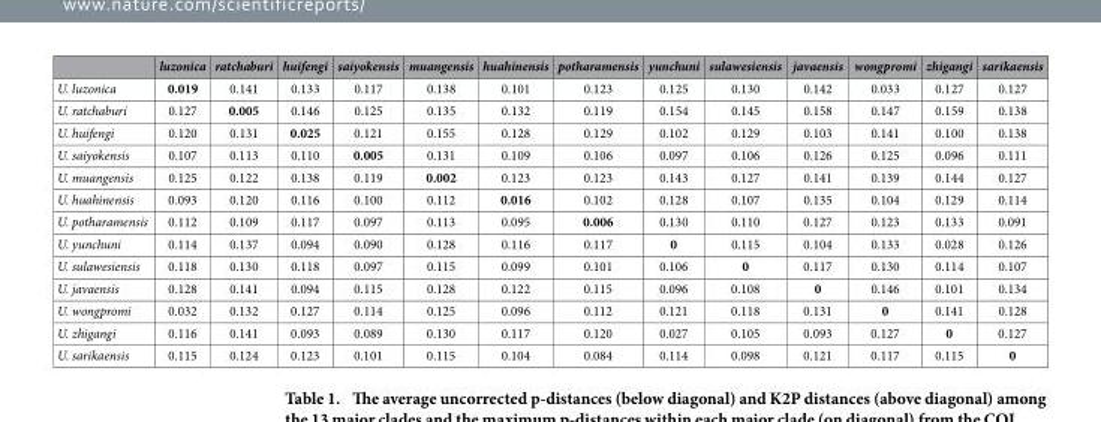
<table><thead><tr><td></td><td>luzonica</td><td>ratchaburi</td><td>huifengi</td><td>saiyokensis</td><td>muangensis</td><td>huahinensis</td><td>potharamensis</td><td>yunchuni</td><td>sulawesiensis</td><td>javaensis</td><td>wongpromi</td><td>zhigangi</td><td>sarikaensis</td></tr></thead><tbody><tr><td>U. luzonica</td><td>0.019</td><td>0.141</td><td>0.133</td><td>0.117</td><td>0.138</td><td>0.101</td><td>0.123</td><td>0.125</td><td>0.130</td><td>0.142</td><td>0.033</td><td>0.127</td><td>0.127</td></tr><tr><td>U. ratchaburi</td><td>0.127</td><td>0.005</td><td>0.146</td><td>0.125</td><td>0.135</td><td>0.132</td><td>0.119</td><td>0.154</td><td>0.145</td><td>0.158</td><td>0.147</td><td>0.159</td><td>0.138</td></tr><tr><td>U. huifengi</td><td>0.120</td><td>0.131</td><td>0.025</td><td>0.121</td><td>0.155</td><td>0.128</td><td>0.129</td><td>0.102</td><td>0.129</td><td>0.103</td><td>0.141</td><td>0.100</td><td>0.138</td></tr><tr><td>U. saiyokensis</td><td>0.107</td><td>0.113</td><td>0.110</td><td>0.005</td><td>0.131</td><td>0.109</td><td>0.106</td><td>0.097</td><td>0.106</td><td>0.126</td><td>0.125</td><td>0.096</td><td>0.111</td></tr><tr><td>U. muangensis</td><td>0.125</td><td>0.122</td><td>0.138</td><td>0.119</td><td>0.002</td><td>0.123</td><td>0.123</td><td>0.143</td><td>0.127</td><td>0.141</td><td>0.139</td><td>0.144</td><td>0.127</td></tr><tr><td>U. huahinensis</td><td>0.093</td><td>0.120</td><td>0.116</td><td>0.100</td><td>0.112</td><td>0.016</td><td>0.102</td><td>0.128</td><td>0.107</td><td>0.135</td><td>0.104</td><td>0.129</td><td>0.114</td></tr><tr><td>U. potharamensis</td><td>0.112</td><td>0.109</td><td>0.117</td><td>0.097</td><td>0.113</td><td>0.095</td><td>0.006</td><td>0.130</td><td>0.110</td><td>0.127</td><td>0.123</td><td>0.133</td><td>0.091</td></tr><tr><td>U. yunchuni</td><td>0.114</td><td>0.137</td><td>0.094</td><td>0.090</td><td>0.128</td><td>0.116</td><td>0.117</td><td>0</td><td>0.115</td><td>0.104</td><td>0.133</td><td>0.028</td><td>0.126</td></tr><tr><td>U. sulawesiensis</td><td>0.118</td><td>0.130</td><td>0.118</td><td>0.097</td><td>0.115</td><td>0.099</td><td>0.101</td><td>0.106</td><td>0</td><td>0.117</td><td>0.130</td><td>0.114</td><td>0.107</td></tr><tr><td>U. javaensis</td><td>0.128</td><td>0.141</td><td>0.094</td><td>0.115</td><td>0.128</td><td>0.122</td><td>0.115</td><td>0.096</td><td>0.108</td><td>0</td><td>0.146</td><td>0.101</td><td>0.134</td></tr><tr><td>U. wongpromi</td><td>0.032</td><td>0.132</td><td>0.127</td><td>0.114</td><td>0.125</td><td>0.096</td><td>0.112</td><td>0.121</td><td>0.118</td><td>0.131</td><td>0</td><td>0.141</td><td>0.128</td></tr><tr><td>U. zhigangi</td><td>0.116</td><td>0.141</td><td>0.093</td><td>0.089</td><td>0.130</td><td>0.117</td><td>0.120</td><td>0.027</td><td>0.105</td><td>0.093</td><td>0.127</td><td>0</td><td>0.127</td></tr><tr><td>U. sarikaensis</td><td>0.115</td><td>0.124</td><td>0.123</td><td>0.101</td><td>0.115</td><td>0.104</td><td>0.084</td><td>0.114</td><td>0.098</td><td>0.121</td><td>0.117</td><td>0.115</td><td>0</td></tr></tbody></table>